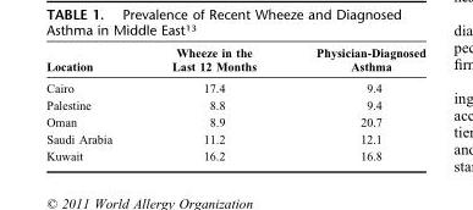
<table><thead><tr><td>Location</td><td>Wheeze in the Last 12 Months</td><td>Physician-Diagnosed Asthma</td></tr></thead><tbody><tr><td>Cairo</td><td>17.4</td><td>9.4</td></tr><tr><td>Palestine</td><td>8.8</td><td>9.4</td></tr><tr><td>Oman</td><td>8.9</td><td>20.7</td></tr><tr><td>Saudi Arabia</td><td>11.2</td><td>12.1</td></tr><tr><td>Kuwait</td><td>16.2</td><td>16.8</td></tr></tbody></table>